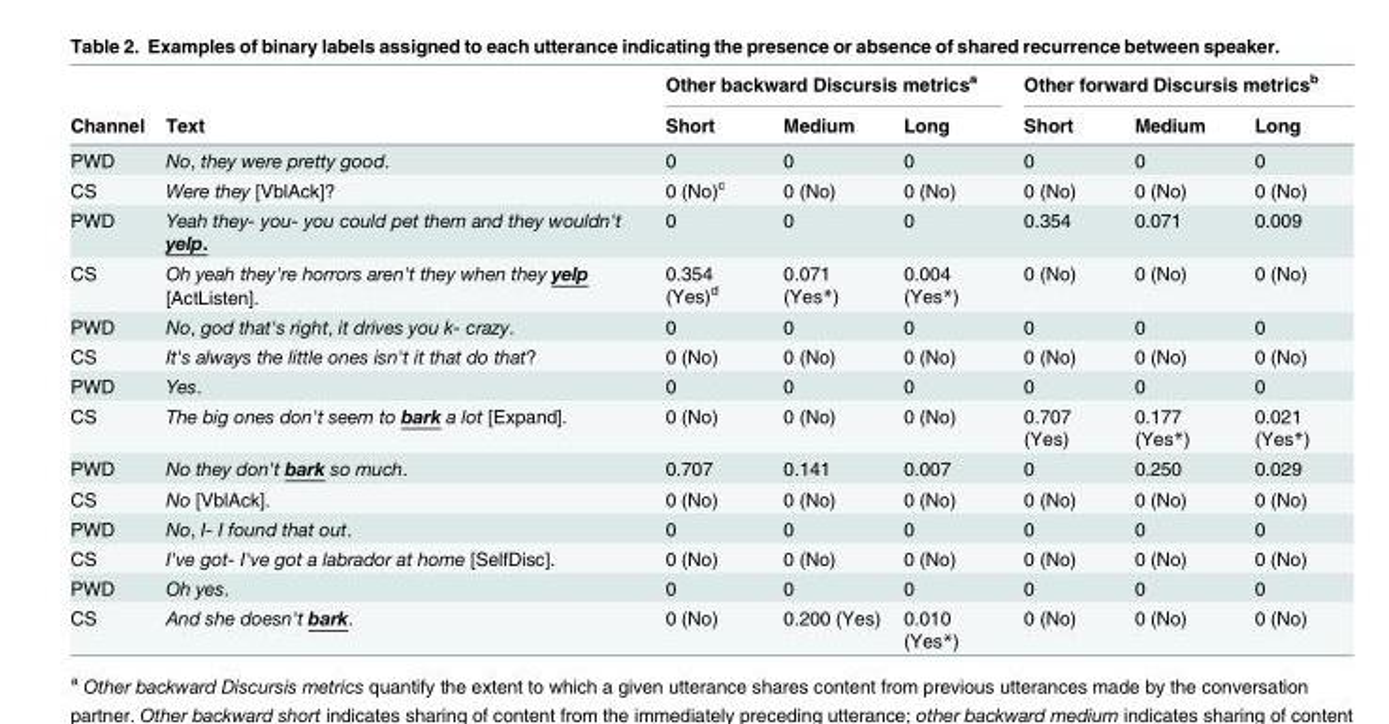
<table><thead><tr><td rowspan="2">Channel</td><td rowspan="2">Text</td><td colspan="3">Other backward Discursis metrics<sup>a</sup></td><td colspan="3">Other forward Discursis metrics<sup>b</sup></td></tr><tr><td>Short</td><td>Medium</td><td>Long</td><td>Short</td><td>Medium</td><td>Long</td></tr></thead><tbody><tr><td>PWD</td><td>No, they were pretty good.</td><td>0</td><td>0</td><td>0</td><td>0</td><td>0</td><td>0</td></tr><tr><td>CS</td><td>Were they [VblAck]?</td><td>0 (No)<sup>c</sup></td><td>0 (No)</td><td>0 (No)</td><td>0 (No)</td><td>0 (No)</td><td>0 (No)</td></tr><tr><td>PWD</td><td>Yeah they- you- you could pet them and they wouldn&#x27;t yelp.</td><td>0</td><td>0</td><td>0</td><td>0.354</td><td>0.071</td><td>0.009</td></tr><tr><td>CS</td><td>Oh yeah they&#x27;re horrors aren&#x27;t they when they yelp [ActListen].</td><td>0.354 (Yes)<sup>d</sup></td><td>0.071 (Yes*)</td><td>0.004 (Yes*)</td><td>0 (No)</td><td>0 (No)</td><td>0 (No)</td></tr><tr><td>PWD</td><td>No, god that&#x27;s right, it drives you k- crazy.</td><td>0</td><td>0</td><td>0</td><td>0</td><td>0</td><td>0</td></tr><tr><td>CS</td><td>It&#x27;s always the little ones isn&#x27;t it that do that?</td><td>0 (No)</td><td>0 (No)</td><td>0 (No)</td><td>0 (No)</td><td>0 (No)</td><td>0 (No)</td></tr><tr><td>PWD</td><td>Yes.</td><td>0</td><td>0</td><td>0</td><td>0</td><td>0</td><td>0</td></tr><tr><td>CS</td><td>The big ones don&#x27;t seem to bark a lot [Expand].</td><td>0 (No)</td><td>0 (No)</td><td>0 (No)</td><td>0.707 (Yes)</td><td>0.177 (Yes*)</td><td>0.021 (Yes*)</td></tr><tr><td>PWD</td><td>No they don&#x27;t bark so much.</td><td>0.707</td><td>0.141</td><td>0.007</td><td>0</td><td>0.250</td><td>0.029</td></tr><tr><td>CS</td><td>No [VblAck].</td><td>0 (No)</td><td>0 (No)</td><td>0 (No)</td><td>0 (No)</td><td>0 (No)</td><td>0 (No)</td></tr><tr><td>PWD</td><td>No, I- I found that out.</td><td>0</td><td>0</td><td>0</td><td>0</td><td>0</td><td>0</td></tr><tr><td>CS</td><td>I&#x27;ve got- I&#x27;ve got a labrador at home [SelfDisc].</td><td>0 (No)</td><td>0 (No)</td><td>0 (No)</td><td>0 (No)</td><td>0 (No)</td><td>0 (No)</td></tr><tr><td>PWD</td><td>Oh yes.</td><td>0</td><td>0</td><td>0</td><td>0</td><td>0</td><td>0</td></tr><tr><td>CS</td><td>And she doesn&#x27;t bark.</td><td>0 (No)</td><td>0.200 (Yes)</td><td>0.010 (Yes*)</td><td>0 (No)</td><td>0 (No)</td><td>0 (No)</td></tr></tbody></table>